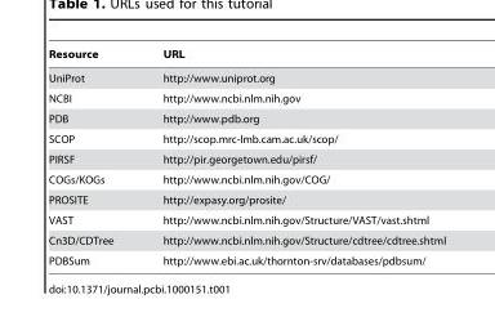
<table><thead><tr><td>Resource</td><td>URL</td></tr></thead><tbody><tr><td>UniProt</td><td>http://www.uniprot.org</td></tr><tr><td>NCBI</td><td>http://www.ncbi.nlm.nih.gov</td></tr><tr><td>PDB</td><td>http://www.pdb.org</td></tr><tr><td>SCOP</td><td>http://scop.mrc-lmb.cam.ac.uk/scop/</td></tr><tr><td>PIRSF</td><td>http://pir.georgetown.edu/pirsf/</td></tr><tr><td>COGs/KOGs</td><td>http://www.ncbi.nlm.nih.gov/COG/</td></tr><tr><td>PROSITE</td><td>http://expasy.org/prosite/</td></tr><tr><td>VAST</td><td>http://www.ncbi.nlm.nih.gov/Structure/VAST/vast.shtml</td></tr><tr><td>Cn3D/CDTree</td><td>http://www.ncbi.nlm.nih.gov/Structure/cdtree/cdtree.shtml</td></tr><tr><td>PDBSum</td><td>http://www.ebi.ac.uk/thornton-srv/databases/pdbsum/</td></tr></tbody></table>